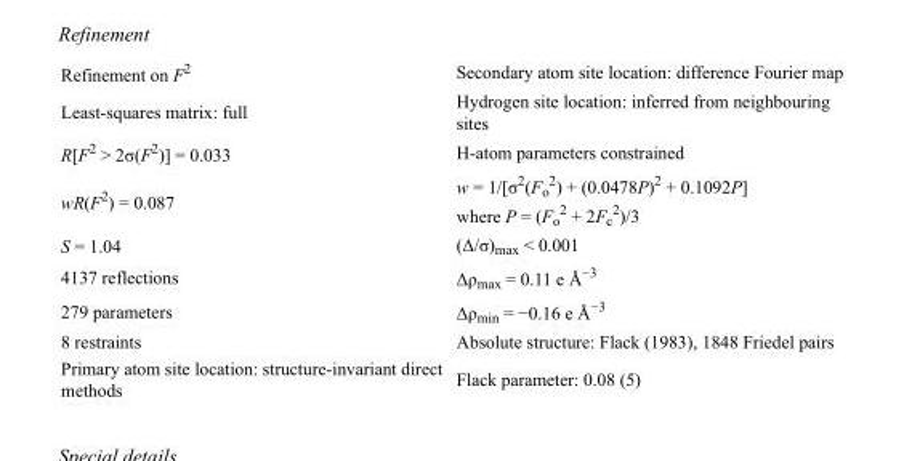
<table><tbody><tr><td>Refinement on F<sup>2</sup></td><td>Secondary atom site location: difference Fourier map</td></tr><tr><td>Least-squares matrix: full</td><td>Hydrogen site location: inferred from neighbouring sites</td></tr><tr><td>R[F<sup>2</sup> &gt; 2σ(F<sup>2</sup>)] = 0.033</td><td>H-atom parameters constrained</td></tr><tr><td>wR(F<sup>2</sup>) = 0.087</td><td>w = 1/[σ<sup>2</sup>(F<sub>o</sub> <sup>2</sup>) + (0.0478P)<sup>2</sup> + 0.1092P] where P = (F<sub>o</sub> <sup>2</sup> + 2F<sub>c</sub> <sup>2</sup>)/3</td></tr><tr><td>S = 1.04</td><td>(Δ/σ)<sub>max</sub> &lt; 0.001</td></tr><tr><td>4137 reflections</td><td>Δρ<sub>max</sub> = 0.11 e Å<sup>−3</sup></td></tr><tr><td>279 parameters</td><td>Δρ<sub>min</sub> = −0.16 e Å<sup>−3</sup></td></tr><tr><td>8 restraints</td><td>Absolute structure: Flack (1983), 1848 Friedel pairs</td></tr><tr><td>Primary atom site location: structure-invariant direct methods</td><td>Flack parameter: 0.08 (5)</td></tr></tbody></table>